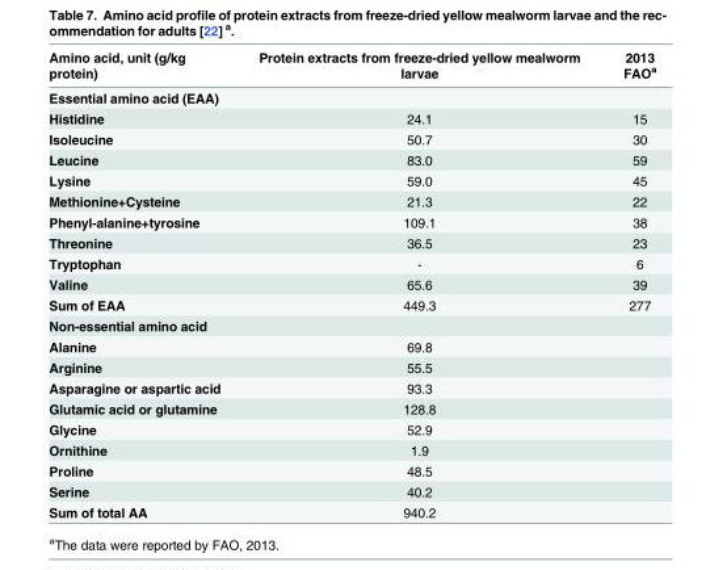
<table><thead><tr><td>Amino acid, unit (g/kg protein)</td><td>Protein extracts from freeze-dried yellow mealworm larvae</td><td>2013 FAO<sup>a</sup></td></tr></thead><tbody><tr><td colspan="3">Essential amino acid (EAA)</td></tr><tr><td>Histidine</td><td>24.1</td><td>15</td></tr><tr><td>Isoleucine</td><td>50.7</td><td>30</td></tr><tr><td>Leucine</td><td>83.0</td><td>59</td></tr><tr><td>Lysine</td><td>59.0</td><td>45</td></tr><tr><td>Methionine+Cysteine</td><td>21.3</td><td>22</td></tr><tr><td>Phenyl-alanine+tyrosine</td><td>109.1</td><td>38</td></tr><tr><td>Threonine</td><td>36.5</td><td>23</td></tr><tr><td>Tryptophan</td><td>-</td><td>6</td></tr><tr><td>Valine</td><td>65.6</td><td>39</td></tr><tr><td>Sum of EAA</td><td>449.3</td><td>277</td></tr><tr><td colspan="3">Non-essential amino acid</td></tr><tr><td>Alanine</td><td>69.8</td><td></td></tr><tr><td>Arginine</td><td>55.5</td><td></td></tr><tr><td>Asparagine or aspartic acid</td><td>93.3</td><td></td></tr><tr><td>Glutamic acid or glutamine</td><td>128.8</td><td></td></tr><tr><td>Glycine</td><td>52.9</td><td></td></tr><tr><td>Ornithine</td><td>1.9</td><td></td></tr><tr><td>Proline</td><td>48.5</td><td></td></tr><tr><td>Serine</td><td>40.2</td><td></td></tr><tr><td>Sum of total AA</td><td>940.2</td><td></td></tr></tbody></table>